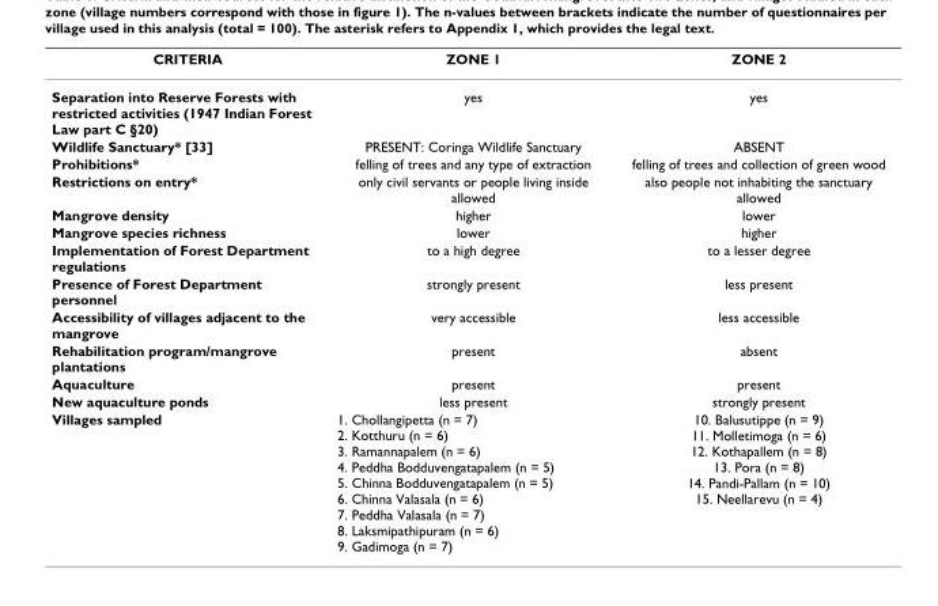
<table><thead><tr><td>CRITERIA</td><td>ZONE 1</td><td>ZONE 2</td></tr></thead><tbody><tr><td>Separation into Reserve Forests with restricted activities (1947 Indian Forest Law part C §20)</td><td>yes</td><td>yes</td></tr><tr><td>Wildlife Sanctuary* [33]</td><td>PRESENT: Coringa Wildlife Sanctuary</td><td>ABSENT</td></tr><tr><td>Prohibitions*</td><td>felling of trees and any type of extraction</td><td>felling of trees and collection of green wood</td></tr><tr><td>Restrictions on entry*</td><td>only civil servants or people living inside allowed</td><td>also people not inhabiting the sanctuary allowed</td></tr><tr><td>Mangrove density</td><td>higher</td><td>lower</td></tr><tr><td>Mangrove species richness</td><td>lower</td><td>higher</td></tr><tr><td>Implementation of Forest Department regulations</td><td>to a high degree</td><td>to a lesser degree</td></tr><tr><td>Presence of Forest Department personnel</td><td>strongly present</td><td>less present</td></tr><tr><td>Accessibility of villages adjacent to the mangrove</td><td>very accessible</td><td>less accessible</td></tr><tr><td>Rehabilitation program/mangrove plantations</td><td>present</td><td>absent</td></tr><tr><td>Aquaculture</td><td>present</td><td>present</td></tr><tr><td>New aquaculture ponds</td><td>less present</td><td>strongly present</td></tr><tr><td>Villages sampled</td><td>1. Chollangipetta (n = 7) 2. Kotthuru (n = 6) 3. Ramannapalem (n = 6) 4. Peddha Bodduvengatapalem (n = 5) 5. Chinna Bodduvengatapalem (n = 5) 6. Chinna Valasala (n = 6) 7. Peddha Valasala (n = 7) 8. Laksmipathipuram (n = 6) 9. Gadimoga (n = 7)</td><td>10. Balusutippe (n = 9) 11. Molletimoga (n = 6) 12. Kothapallem (n = 8) 13. Pora (n = 8) 14. Pandi-Pallam (n = 10) 15. Neellarevu (n = 4)</td></tr></tbody></table>